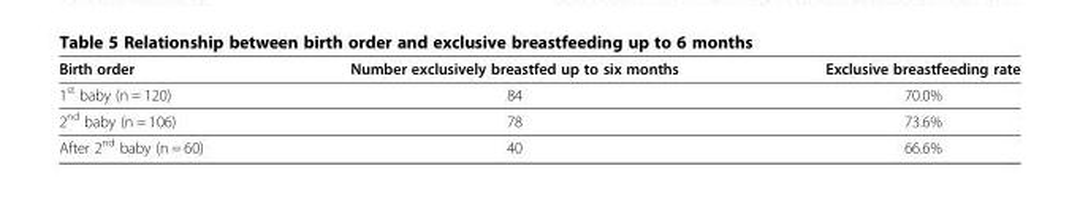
<table><thead><tr><td>Birth order</td><td>Number exclusively breastfed up to six months</td><td>Exclusive breastfeeding rate</td></tr></thead><tbody><tr><td>1<sup>st</sup> baby (n = 120)</td><td>84</td><td>70.0%</td></tr><tr><td>2<sup>nd</sup> baby (n = 106)</td><td>78</td><td>73.6%</td></tr><tr><td>After 2<sup>nd</sup> baby (n = 60)</td><td>40</td><td>66.6%</td></tr></tbody></table>